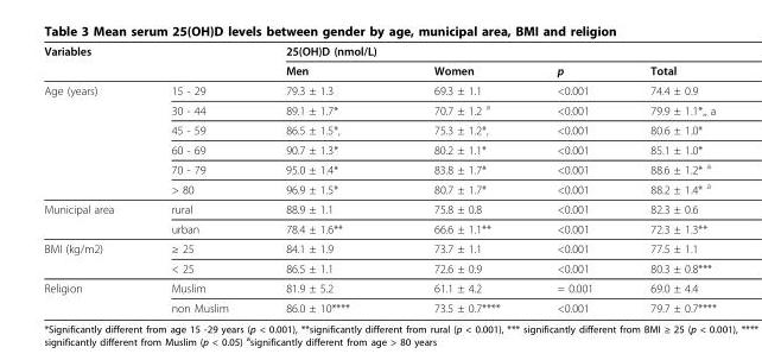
<table><thead><tr><td rowspan="2">Variables</td><td rowspan="2"></td><td rowspan="2">25(OH)D (nmol/L) Men</td><td rowspan="2">Women</td><td rowspan="2">p</td><td rowspan="2">Total</td></tr><tr></tr></thead><tbody><tr><td rowspan="6">Age (years)</td><td>15 - 29</td><td>79.3 ± 1.3</td><td>69.3 ± 1.1</td><td>&lt;0.001</td><td>74.4 ± 0.9</td></tr><tr><td>30 - 44</td><td>89.1 ± 1.7*</td><td>70.7 ± 1.2 <sup>a</sup></td><td>&lt;0.001</td><td>79.9 ± 1.1*,, a</td></tr><tr><td>45 - 59</td><td>86.5 ± 1.5*,</td><td>75.3 ± 1.2*,</td><td>&lt;0.001</td><td>80.6 ± 1.0*</td></tr><tr><td>60 - 69</td><td>90.7 ± 1.3*</td><td>80.2 ± 1.1*</td><td>&lt;0.001</td><td>85.1 ± 1.0*</td></tr><tr><td>70 - 79</td><td>95.0 ± 1.4*</td><td>83.8 ± 1.7*</td><td>&lt;0.001</td><td>88.6 ± 1.2* <sup>a</sup></td></tr><tr><td>&gt; 80</td><td>96.9 ± 1.5*</td><td>80.7 ± 1.7*</td><td>&lt;0.001</td><td>88.2 ± 1.4* <sup>a</sup></td></tr><tr><td rowspan="2">Municipal area</td><td>rural</td><td>88.9 ± 1.1</td><td>75.8 ± 0.8</td><td>&lt;0.001</td><td>82.3 ± 0.6</td></tr><tr><td>urban</td><td>78.4 ± 1.6**</td><td>66.6 ± 1.1**</td><td>&lt;0.001</td><td>72.3 ± 1.3**</td></tr><tr><td rowspan="2">BMI (kg/m2)</td><td>≥ 25</td><td>84.1 ± 1.9</td><td>73.7 ± 1.1</td><td>&lt;0.001</td><td>77.5 ± 1.1</td></tr><tr><td>&lt; 25</td><td>86.5 ± 1.1</td><td>72.6 ± 0.9</td><td>&lt;0.001</td><td>80.3 ± 0.8***</td></tr><tr><td rowspan="2">Religion</td><td>Muslim</td><td>81.9 ± 5.2</td><td>61.1 ± 4.2</td><td>= 0.001</td><td>69.0 ± 4.4</td></tr><tr><td>non Muslim</td><td>86.0 ± 10****</td><td>73.5 ± 0.7****</td><td>&lt;0.001</td><td>79.7 ± 0.7****</td></tr></tbody></table>